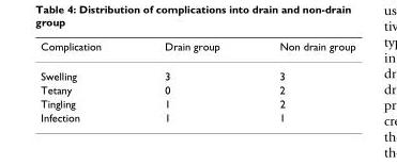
<table><thead><tr><td>Complication</td><td>Drain group</td><td>Non drain group</td></tr></thead><tbody><tr><td>Swelling</td><td>3</td><td>3</td></tr><tr><td>Tetany</td><td>0</td><td>2</td></tr><tr><td>Tingling</td><td>1</td><td>2</td></tr><tr><td>Infection</td><td>1</td><td>1</td></tr></tbody></table>